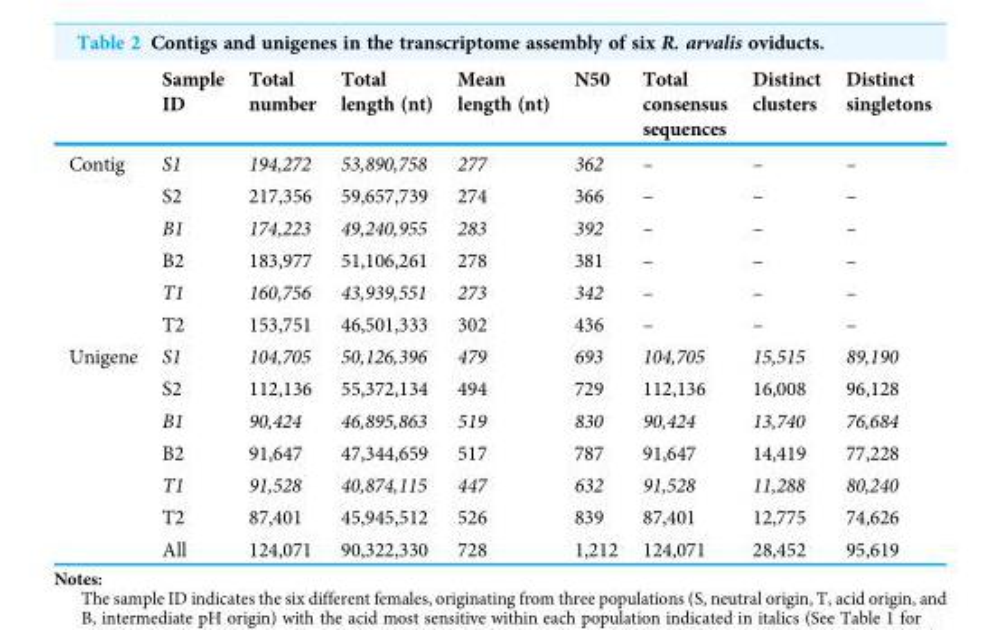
<table><thead><tr><td></td><td>Sample ID</td><td>Total number</td><td>Total length (nt)</td><td>Mean length (nt)</td><td>N50</td><td>Total consensus sequences</td><td>Distinct clusters</td><td>Distinct singletons</td></tr></thead><tbody><tr><td rowspan="6">Contig</td><td>S1</td><td>194,272</td><td>53,890,758</td><td>277</td><td>362</td><td>–</td><td>–</td><td>–</td></tr><tr><td>S2</td><td>217,356</td><td>59,657,739</td><td>274</td><td>366</td><td>–</td><td>–</td><td>–</td></tr><tr><td>B1</td><td>174,223</td><td>49,240,955</td><td>283</td><td>392</td><td>–</td><td>–</td><td>–</td></tr><tr><td>B2</td><td>183,977</td><td>51,106,261</td><td>278</td><td>381</td><td>–</td><td>–</td><td>–</td></tr><tr><td>T1</td><td>160,756</td><td>43,939,551</td><td>273</td><td>342</td><td>–</td><td>–</td><td>–</td></tr><tr><td>T2</td><td>153,751</td><td>46,501,333</td><td>302</td><td>436</td><td>–</td><td>–</td><td>–</td></tr><tr><td rowspan="7">Unigene</td><td>S1</td><td>104,705</td><td>50,126,396</td><td>479</td><td>693</td><td>104,705</td><td>15,515</td><td>89,190</td></tr><tr><td>S2</td><td>112,136</td><td>55,372,134</td><td>494</td><td>729</td><td>112,136</td><td>16,008</td><td>96,128</td></tr><tr><td>B1</td><td>90,424</td><td>46,895,863</td><td>519</td><td>830</td><td>90,424</td><td>13,740</td><td>76,684</td></tr><tr><td>B2</td><td>91,647</td><td>47,344,659</td><td>517</td><td>787</td><td>91,647</td><td>14,419</td><td>77,228</td></tr><tr><td>T1</td><td>91,528</td><td>40,874,115</td><td>447</td><td>632</td><td>91,528</td><td>11,288</td><td>80,240</td></tr><tr><td>T2</td><td>87,401</td><td>45,945,512</td><td>526</td><td>839</td><td>87,401</td><td>12,775</td><td>74,626</td></tr><tr><td>All</td><td>124,071</td><td>90,322,330</td><td>728</td><td>1,212</td><td>124,071</td><td>28,452</td><td>95,619</td></tr></tbody></table>